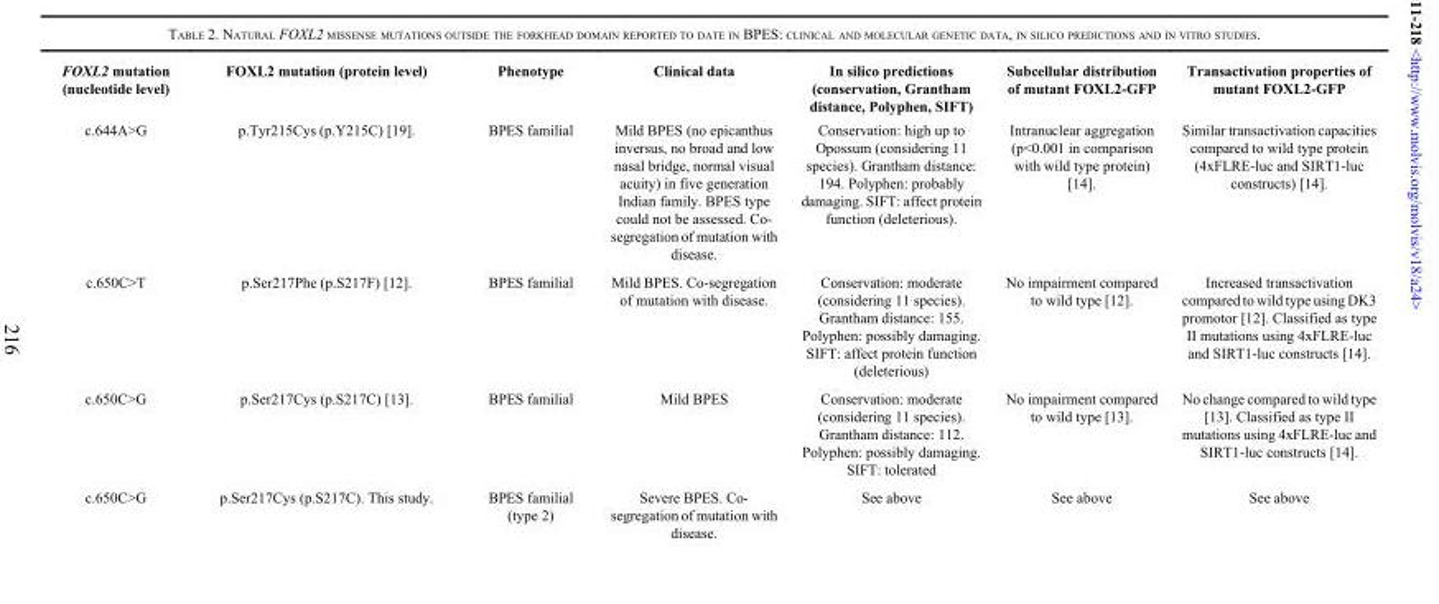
<table><thead><tr><td>FOXL2 mutation (nucleotide level)</td><td>FOXL2 mutation (protein level)</td><td>Phenotype</td><td>Clinical data</td><td>In silico predictions (conservation, Grantham distance, Polyphen, SIFT)</td><td>Subcellular distribution of mutant FOXL2-GFP</td><td>Transactivation properties of mutant FOXL2-GFP</td></tr></thead><tbody><tr><td>c.644A&gt;G</td><td>p.Tyr215Cys (p.Y215C) [19].</td><td>BPES familial</td><td>Mild BPES (no epicanthus inversus, no broad and low nasal bridge, normal visual acuity) in five generation Indian family. BPES type could not be assessed. Co- segregation of mutation with disease.</td><td>Conservation: high up to Opossum (considering 11 species). Grantham distance: 194. Polyphen: probably damaging. SIFT: affect protein function (deleterious).</td><td>Intranuclear aggregation (p&lt;0.001 in comparison with wild type protein) [14].</td><td>Similar transactivation capacities compared to wild type protein (4xFLRE-luc and SIRT1-luc constructs) [14].</td></tr><tr><td>c.650C&gt;T</td><td>p.Ser217Phe (p.S217F) [12].</td><td>BPES familial</td><td>Mild BPES. Co-segregation of mutation with disease.</td><td>Conservation: moderate (considering 11 species). Grantham distance: 155. Polyphen: possibly damaging. SIFT: affect protein function (deleterious)</td><td>No impairment compared to wild type [12].</td><td>Increased transactivation compared to wild type using DK3 promotor [12]. Classified as type II mutations using 4xFLRE-luc and SIRT1-luc constructs [14].</td></tr><tr><td>c.650C&gt;G</td><td>p.Ser217Cys (p.S217C) [13].</td><td>BPES familial</td><td>Mild BPES</td><td>Conservation: moderate (considering 11 species). Grantham distance: 112. Polyphen: possibly damaging. SIFT: tolerated</td><td>No impairment compared to wild type [13].</td><td>No change compared to wild type [13]. Classified as type II mutations using 4xFLRE-luc and SIRT1-luc constructs [14].</td></tr><tr><td>c.650C&gt;G</td><td>p.Ser217Cys (p.S217C). This study.</td><td>BPES familial (type 2)</td><td>Severe BPES. Co- segregation of mutation with disease.</td><td>See above</td><td>See above</td><td>See above</td></tr></tbody></table>